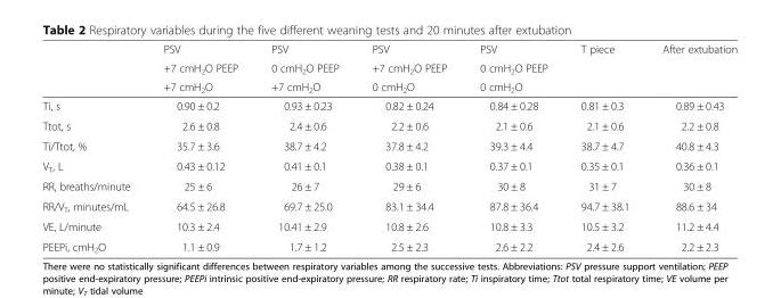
<table><thead><tr><td rowspan="3"></td><td rowspan="3">PSV +7 cmH<sub>2</sub>O PEEP +7 cmH<sub>2</sub>O</td><td rowspan="3">PSV 0 cmH<sub>2</sub>O PEEP +7 cmH<sub>2</sub>O</td><td rowspan="3">PSV +7 cmH<sub>2</sub>O PEEP 0 cmH<sub>2</sub>O</td><td rowspan="3">PSV 0 cmH<sub>2</sub>O PEEP 0 cmH<sub>2</sub>O</td><td rowspan="3">T piece</td><td rowspan="3">After extubation</td></tr><tr></tr><tr></tr></thead><tbody><tr><td>Ti, s</td><td>0.90 ± 0.2</td><td>0.93 ± 0.23</td><td>0.82 ± 0.24</td><td>0.84 ± 0.28</td><td>0.81 ± 0.3</td><td>0.89 ± 0.43</td></tr><tr><td>Ttot, s</td><td>2.6 ± 0.8</td><td>2.4 ± 0.6</td><td>2.2 ± 0.6</td><td>2.1 ± 0.6</td><td>2.1 ± 0.6</td><td>2.2 ± 0.8</td></tr><tr><td>Ti/Ttot, %</td><td>35.7 ± 3.6</td><td>38.7 ± 4.2</td><td>37.8 ± 4.2</td><td>39.3 ± 4.4</td><td>38.7 ± 4.7</td><td>40.8 ± 4.3</td></tr><tr><td>V<sub>T</sub>, L</td><td>0.43 ± 0.12</td><td>0.41 ± 0.1</td><td>0.38 ± 0.1</td><td>0.37 ± 0.1</td><td>0.35 ± 0.1</td><td>0.36 ± 0.1</td></tr><tr><td>RR, breaths/minute</td><td>25 ± 6</td><td>26 ± 7</td><td>29 ± 6</td><td>30 ± 8</td><td>31 ± 7</td><td>30 ± 8</td></tr><tr><td>RR/V<sub>T</sub>, minutes/mL</td><td>64.5 ± 26.8</td><td>69.7 ± 25.0</td><td>83.1 ± 34.4</td><td>87.8 ± 36.4</td><td>94.7 ± 38.1</td><td>88.6 ± 34</td></tr><tr><td>VE, L/minute</td><td>10.3 ± 2.4</td><td>10.41 ± 2.9</td><td>10.8 ± 2.6</td><td>10.8 ± 3.3</td><td>10.5 ± 3.2</td><td>11.2 ± 4.4</td></tr><tr><td>PEEPi, cmH<sub>2</sub>O</td><td>1.1 ± 0.9</td><td>1.7 ± 1.2</td><td>2.5 ± 2.3</td><td>2.6 ± 2.2</td><td>2.4 ± 2.6</td><td>2.2 ± 2.3</td></tr></tbody></table>